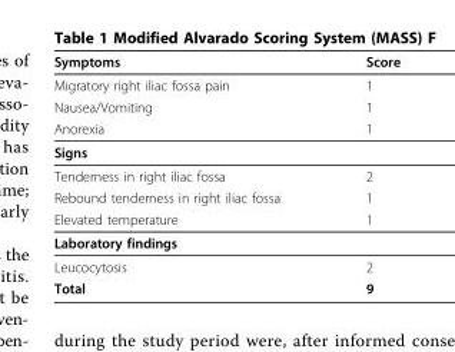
<table><thead><tr><td>Symptoms</td><td>Score</td></tr></thead><tbody><tr><td>Migratory right iliac fossa pain</td><td>1</td></tr><tr><td>Nausea/Vomiting</td><td>1</td></tr><tr><td>Anorexia</td><td>1</td></tr><tr><td colspan="2">Signs</td></tr><tr><td>Tenderness in right iliac fossa</td><td>2</td></tr><tr><td>Rebound tenderness in right iliac fossa</td><td>1</td></tr><tr><td>Elevated temperature</td><td>1</td></tr><tr><td colspan="2">Laboratory findings</td></tr><tr><td>Leucocytosis</td><td>2</td></tr><tr><td>Total</td><td>9</td></tr></tbody></table>